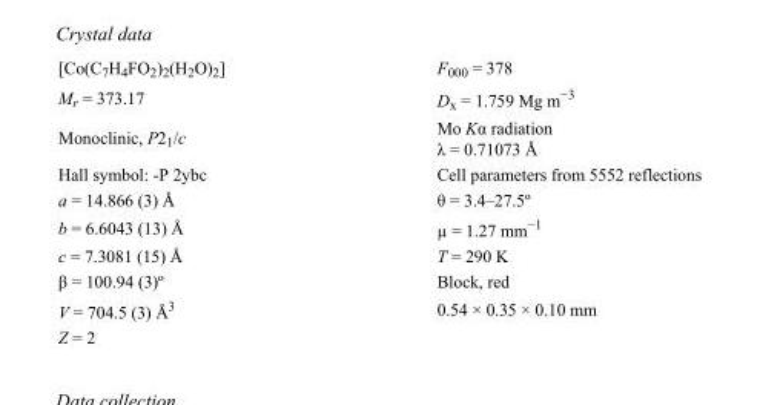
<table><tbody><tr><td>[Co(C<sub>7</sub>H<sub>4</sub>FO<sub>2</sub>)<sub>2</sub>(H<sub>2</sub>O)<sub>2</sub>]</td><td>F000 = 378</td></tr><tr><td>M<sub>r</sub> = 373.17</td><td>D<sub>x</sub> = 1.759 Mg m<sup>−3</sup></td></tr><tr><td>Monoclinic, P2<sub>1</sub>/c</td><td>Mo Kα radiation λ = 0.71073 Å</td></tr><tr><td>Hall symbol: -P 2ybc</td><td>Cell parameters from 5552 reflections</td></tr><tr><td>a = 14.866 (3) Å</td><td>θ = 3.4–27.5º</td></tr><tr><td>b = 6.6043 (13) Å</td><td>µ = 1.27 mm<sup>−1</sup></td></tr><tr><td>c = 7.3081 (15) Å</td><td>T = 290 K</td></tr><tr><td>β = 100.94 (3)º</td><td>Block, red</td></tr><tr><td>V = 704.5 (3) Å<sup>3</sup></td><td>0.54 × 0.35 × 0.10 mm</td></tr><tr><td>Z = 2</td><td></td></tr></tbody></table>